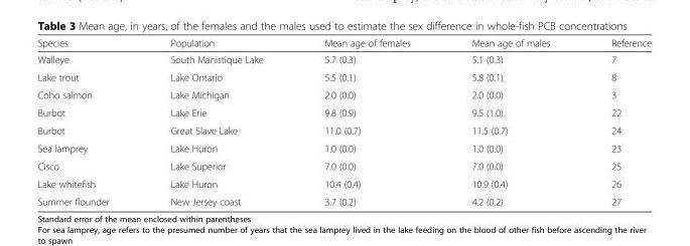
<table><thead><tr><td>Species</td><td>Population</td><td>Mean age of females</td><td>Mean age of males</td><td>Reference</td></tr></thead><tbody><tr><td>Walleye</td><td>South Manistique Lake</td><td>5.7 (0.3)</td><td>5.1 (0.3)</td><td>7</td></tr><tr><td>Lake trout</td><td>Lake Ontario</td><td>5.5 (0.1)</td><td>5.8 (0.1)</td><td>8</td></tr><tr><td>Coho salmon</td><td>Lake Michigan</td><td>2.0 (0.0)</td><td>2.0 (0.0)</td><td>3</td></tr><tr><td>Burbot</td><td>Lake Erie</td><td>9.8 (0.9)</td><td>9.5 (1.0)</td><td>22</td></tr><tr><td>Burbot</td><td>Great Slave Lake</td><td>11.0 (0.7)</td><td>11.5 (0.7)</td><td>24</td></tr><tr><td>Sea lamprey</td><td>Lake Huron</td><td>1.0 (0.0)</td><td>1.0 (0.0)</td><td>23</td></tr><tr><td>Cisco</td><td>Lake Superior</td><td>7.0 (0.0)</td><td>7.0 (0.0)</td><td>25</td></tr><tr><td>Lake whitefish</td><td>Lake Huron</td><td>10.4 (0.4)</td><td>10.9 (0.4)</td><td>26</td></tr><tr><td>Summer flounder</td><td>New Jersey coast</td><td>3.7 (0.2)</td><td>4.2 (0.2)</td><td>27</td></tr></tbody></table>